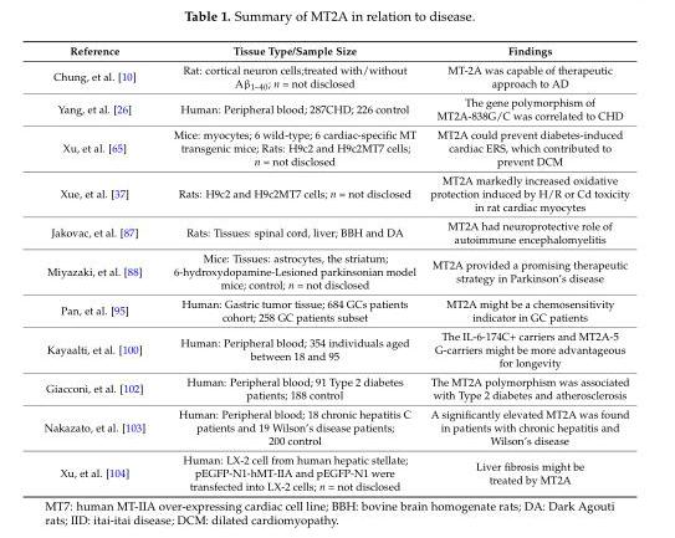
<table><thead><tr><td>Reference</td><td>Tissue Type/Sample Size</td><td>Findings</td></tr></thead><tbody><tr><td>Chung, et al. [10]</td><td>Rat: cortical neuron cells;treated with/without Aβ<sub>1–40</sub>; n = not disclosed</td><td>MT-2A was capable of therapeutic approach to AD</td></tr><tr><td>Yang, et al. [26]</td><td>Human: Peripheral blood; 287CHD; 226 control</td><td>The gene polymorphism of MT2A-838G/C was correlated to CHD</td></tr><tr><td>Xu, et al. [65]</td><td>Mice: myocytes; 6 wild-type; 6 cardiac-specific MT transgenic mice; Rats: H9c2 and H9c2MT7 cells; n = not disclosed</td><td>MT2A could prevent diabetes-induced cardiac ERS, which contributed to prevent DCM</td></tr><tr><td>Xue, et al. [37]</td><td>Rats: H9c2 and H9c2MT7 cells; n = not disclosed</td><td>MT2A markedly increased oxidative protection induced by H/R or Cd toxicity in rat cardiac myocytes</td></tr><tr><td>Jakovac, et al. [87]</td><td>Rats: Tissues: spinal cord, liver; BBH and DA</td><td>MT2A had neuroprotective role of autoimmune encephalomyelitis</td></tr><tr><td>Miyazaki, et al. [88]</td><td>Mice: Tissues: astrocytes, the striatum; 6-hydroxydopamine-Lesioned parkinsonian model mice; control; n = not disclosed</td><td>MT2A provided a promising therapeutic strategy in Parkinson’s disease</td></tr><tr><td>Pan, et al. [95]</td><td>Human: Gastric tumor tissue; 684 GCs patients cohort; 258 GC patients subset</td><td>MT2A might be a chemosensitivity indicator in GC patients</td></tr><tr><td>Kayaalti, et al. [100]</td><td>Human: Peripheral blood; 354 individuals aged between 18 and 95</td><td>The IL-6-174C+ carriers and MT2A-5 G-carriers might be more advantageous for longevity</td></tr><tr><td>Giacconi, et al. [102]</td><td>Human: Peripheral blood; 91 Type 2 diabetes patients; 188 control</td><td>The MT2A polymorphism was associated with Type 2 diabetes and atherosclerosis</td></tr><tr><td>Nakazato, et al. [103]</td><td>Human: Peripheral blood; 18 chronic hepatitis C patients and 19 Wilson’s disease patients; 200 control</td><td>A significantly elevated MT2A was found in patients with chronic hepatitis and Wilson’s disease</td></tr><tr><td>Xu, et al. [104]</td><td>Human: LX-2 cell from human hepatic stellate; pEGFP-N1-hMT-IIA and pEGFP-N1 were transfected into LX-2 cells; n = not disclosed</td><td>Liver fibrosis might be treated by MT2A</td></tr></tbody></table>